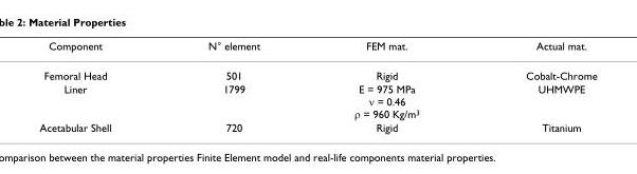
<table><thead><tr><td>Component</td><td>N° element</td><td>FEM mat.</td><td>Actual mat.</td></tr></thead><tbody><tr><td>Femoral Head</td><td>501</td><td>Rigid</td><td>Cobalt-Chrome</td></tr><tr><td>Liner</td><td>1799</td><td>E = 975 MPa ν = 0.46 ρ = 960 Kg/m<sup>3</sup></td><td>UHMWPE</td></tr><tr><td>Acetabular Shell</td><td>720</td><td>Rigid</td><td>Titanium</td></tr></tbody></table>